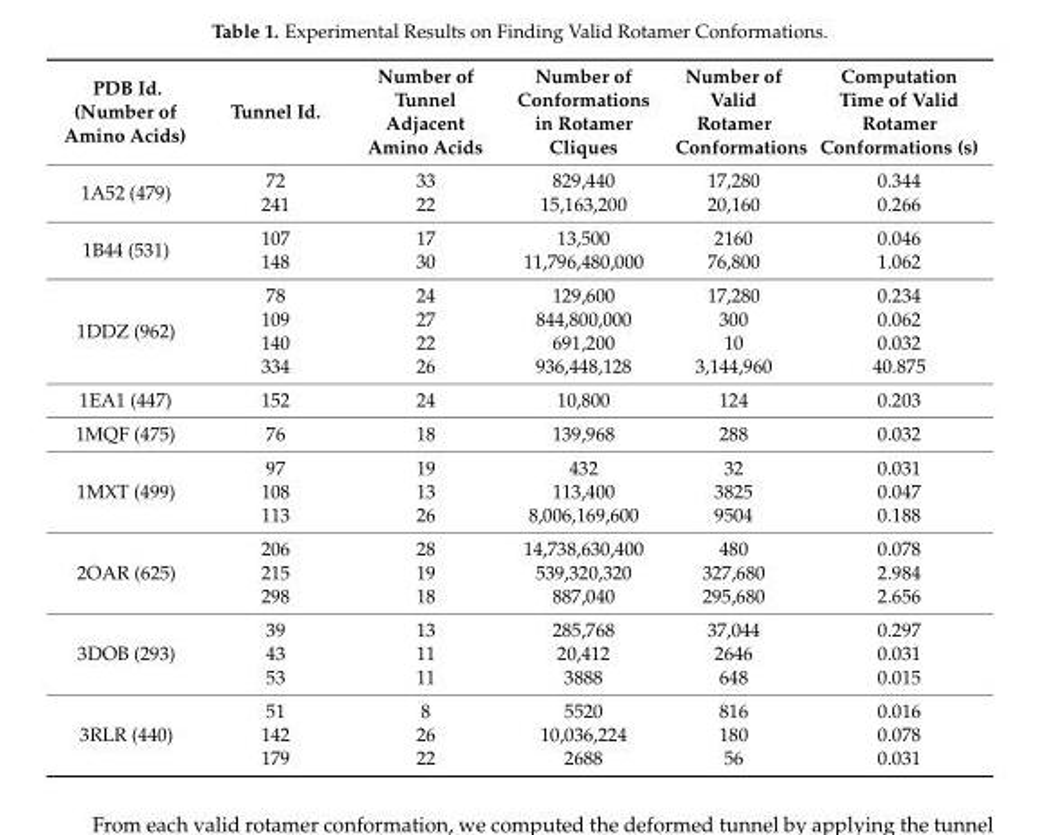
<table><thead><tr><td>PDB Id. (Number of Amino Acids)</td><td>Tunnel Id.</td><td>Number of Tunnel Adjacent Amino Acids</td><td>Number of Conformations in Rotamer Cliques</td><td>Number of Valid Rotamer Conformations</td><td>Computation Time of Valid Rotamer Conformations (s)</td></tr></thead><tbody><tr><td rowspan="2">1A52 (479)</td><td>72</td><td>33</td><td>829,440</td><td>17,280</td><td>0.344</td></tr><tr><td>241</td><td>22</td><td>15,163,200</td><td>20,160</td><td>0.266</td></tr><tr><td rowspan="2">1B44 (531)</td><td>107</td><td>17</td><td>13,500</td><td>2160</td><td>0.046</td></tr><tr><td>148</td><td>30</td><td>11,796,480,000</td><td>76,800</td><td>1.062</td></tr><tr><td rowspan="4">1DDZ (962)</td><td>78</td><td>24</td><td>129,600</td><td>17,280</td><td>0.234</td></tr><tr><td>109</td><td>27</td><td>844,800,000</td><td>300</td><td>0.062</td></tr><tr><td>140</td><td>22</td><td>691,200</td><td>10</td><td>0.032</td></tr><tr><td>334</td><td>26</td><td>936,448,128</td><td>3,144,960</td><td>40.875</td></tr><tr><td>1EA1 (447)</td><td>152</td><td>24</td><td>10,800</td><td>124</td><td>0.203</td></tr><tr><td>1MQF (475)</td><td>76</td><td>18</td><td>139,968</td><td>288</td><td>0.032</td></tr><tr><td rowspan="3">1MXT (499)</td><td>97</td><td>19</td><td>432</td><td>32</td><td>0.031</td></tr><tr><td>108</td><td>13</td><td>113,400</td><td>3825</td><td>0.047</td></tr><tr><td>113</td><td>26</td><td>8,006,169,600</td><td>9504</td><td>0.188</td></tr><tr><td rowspan="3">2OAR (625)</td><td>206</td><td>28</td><td>14,738,630,400</td><td>480</td><td>0.078</td></tr><tr><td>215</td><td>19</td><td>539,320,320</td><td>327,680</td><td>2.984</td></tr><tr><td>298</td><td>18</td><td>887,040</td><td>295,680</td><td>2.656</td></tr><tr><td rowspan="3">3DOB (293)</td><td>39</td><td>13</td><td>285,768</td><td>37,044</td><td>0.297</td></tr><tr><td>43</td><td>11</td><td>20,412</td><td>2646</td><td>0.031</td></tr><tr><td>53</td><td>11</td><td>3888</td><td>648</td><td>0.015</td></tr><tr><td rowspan="3">3RLR (440)</td><td>51</td><td>8</td><td>5520</td><td>816</td><td>0.016</td></tr><tr><td>142</td><td>26</td><td>10,036,224</td><td>180</td><td>0.078</td></tr><tr><td>179</td><td>22</td><td>2688</td><td>56</td><td>0.031</td></tr></tbody></table>